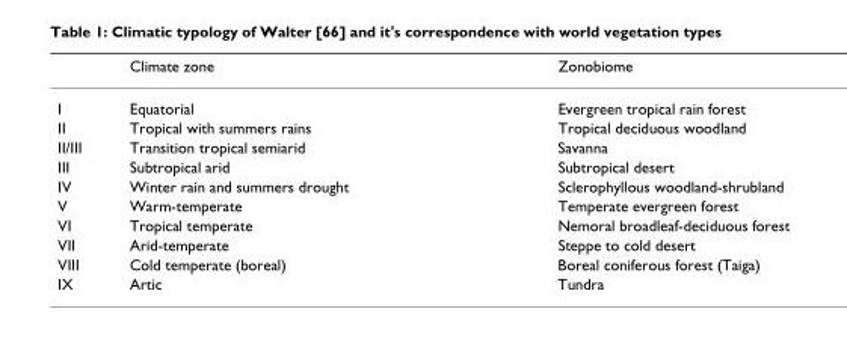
<table><thead><tr><td></td><td>Climate zone</td><td>Zonobiome</td></tr></thead><tbody><tr><td>I</td><td>Equatorial</td><td>Evergreen tropical rain forest</td></tr><tr><td>II</td><td>Tropical with summers rains</td><td>Tropical deciduous woodland</td></tr><tr><td>II/III</td><td>Transition tropical semiarid</td><td>Savanna</td></tr><tr><td>III</td><td>Subtropical arid</td><td>Subtropical desert</td></tr><tr><td>IV</td><td>Winter rain and summers drought</td><td>Sclerophyllous woodland-shrubland</td></tr><tr><td>V</td><td>Warm-temperate</td><td>Temperate evergreen forest</td></tr><tr><td>VI</td><td>Tropical temperate</td><td>Nemoral broadleaf-deciduous forest</td></tr><tr><td>VII</td><td>Arid-temperate</td><td>Steppe to cold desert</td></tr><tr><td>VIII</td><td>Cold temperate (boreal)</td><td>Boreal coniferous forest (Taiga)</td></tr><tr><td>IX</td><td>Artic</td><td>Tundra</td></tr></tbody></table>